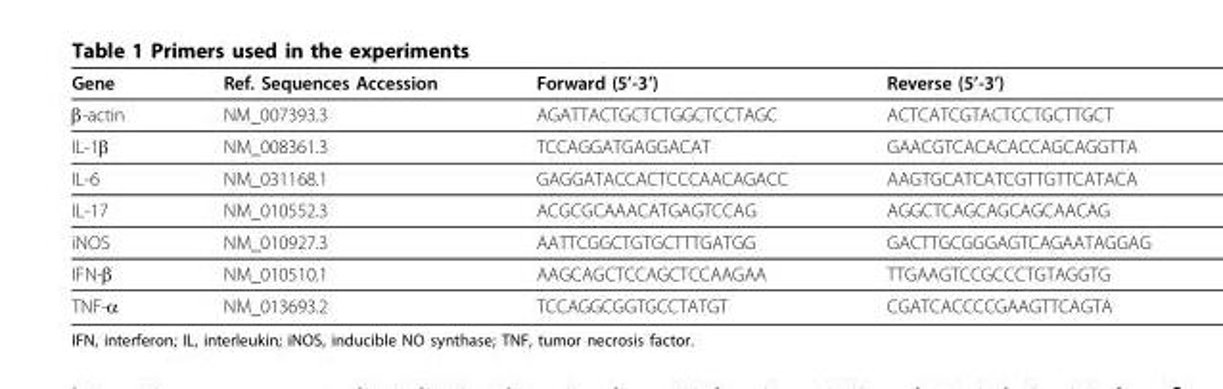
<table><thead><tr><td>Gene</td><td>Ref. Sequences Accession</td><td>Forward (5’-3’)</td><td>Reverse (5’-3’)</td></tr></thead><tbody><tr><td>β-actin</td><td>NM_007393.3</td><td>AGATTACTGCTCTGGCTCCTAGC</td><td>ACTCATCGTACTCCTGCTTGCT</td></tr><tr><td>IL-1β</td><td>NM_008361.3</td><td>TCCAGGATGAGGACAT</td><td>GAACGTCACACACCAGCAGGTTA</td></tr><tr><td>IL-6</td><td>NM_031168.1</td><td>GAGGATACCACTCCCAACAGACC</td><td>AAGTGCATCATCGTTGTTCATACA</td></tr><tr><td>IL-17</td><td>NM_010552.3</td><td>ACGCGCAAACATGAGTCCAG</td><td>AGGCTCAGCAGCAGCAACAG</td></tr><tr><td>iNOS</td><td>NM_010927.3</td><td>AATTCGGCTGTGCTTTGATGG</td><td>GACTTGCGGGAGTCAGAATAGGAG</td></tr><tr><td>IFN-β</td><td>NM_010510.1</td><td>AAGCAGCTCCAGCTCCAAGAA</td><td>TTGAAGTCCGCCCTGTAGGTG</td></tr><tr><td>TNF-α</td><td>NM_013693.2</td><td>TCCAGGCGGTGCCTATGT</td><td>CGATCACCCCGAAGTTCAGTA</td></tr></tbody></table>